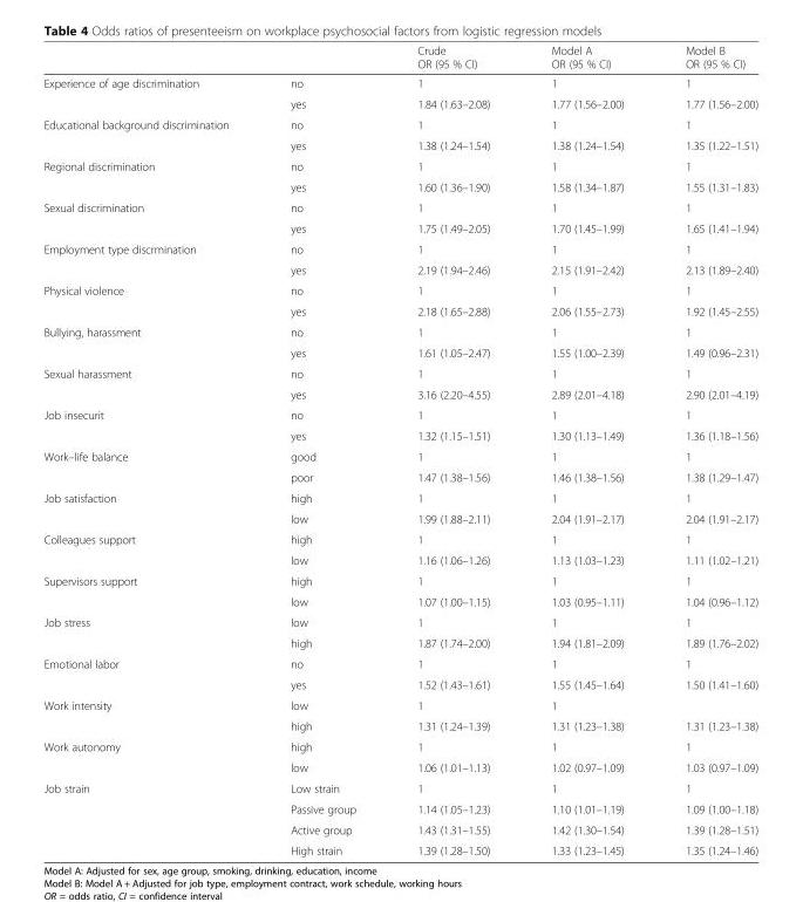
<table><thead><tr><td></td><td></td><td>Crude OR (95 % CI)</td><td>Model A OR (95 % CI)</td><td>Model B OR (95 % CI)</td></tr></thead><tbody><tr><td rowspan="2">Experience of age discrimination</td><td>no</td><td>1</td><td>1</td><td>1</td></tr><tr><td>yes</td><td>1.84 (1.63–2.08)</td><td>1.77 (1.56–2.00)</td><td>1.77 (1.56–2.00)</td></tr><tr><td rowspan="2">Educational background discrimination</td><td>no</td><td>1</td><td>1</td><td>1</td></tr><tr><td>yes</td><td>1.38 (1.24–1.54)</td><td>1.38 (1.24–1.54)</td><td>1.35 (1.22–1.51)</td></tr><tr><td rowspan="2">Regional discrimination</td><td>no</td><td>1</td><td>1</td><td>1</td></tr><tr><td>yes</td><td>1.60 (1.36–1.90)</td><td>1.58 (1.34–1.87)</td><td>1.55 (1.31–1.83)</td></tr><tr><td rowspan="2">Sexual discrimination</td><td>no</td><td>1</td><td>1</td><td>1</td></tr><tr><td>yes</td><td>1.75 (1.49–2.05)</td><td>1.70 (1.45–1.99)</td><td>1.65 (1.41–1.94)</td></tr><tr><td rowspan="2">Employment type discrmination</td><td>no</td><td>1</td><td>1</td><td>1</td></tr><tr><td>yes</td><td>2.19 (1.94–2.46)</td><td>2.15 (1.91–2.42)</td><td>2.13 (1.89–2.40)</td></tr><tr><td rowspan="2">Physical violence</td><td>no</td><td>1</td><td>1</td><td>1</td></tr><tr><td>yes</td><td>2.18 (1.65–2.88)</td><td>2.06 (1.55–2.73)</td><td>1.92 (1.45–2.55)</td></tr><tr><td rowspan="2">Bullying, harassment</td><td>no</td><td>1</td><td>1</td><td>1</td></tr><tr><td>yes</td><td>1.61 (1.05–2.47)</td><td>1.55 (1.00–2.39)</td><td>1.49 (0.96–2.31)</td></tr><tr><td rowspan="2">Sexual harassment</td><td>no</td><td>1</td><td>1</td><td>1</td></tr><tr><td>yes</td><td>3.16 (2.20–4.55)</td><td>2.89 (2.01–4.18)</td><td>2.90 (2.01–4.19)</td></tr><tr><td rowspan="2">Job insecurit</td><td>no</td><td>1</td><td>1</td><td>1</td></tr><tr><td>yes</td><td>1.32 (1.15–1.51)</td><td>1.30 (1.13–1.49)</td><td>1.36 (1.18–1.56)</td></tr><tr><td rowspan="2">Work–life balance</td><td>good</td><td>1</td><td>1</td><td>1</td></tr><tr><td>poor</td><td>1.47 (1.38–1.56)</td><td>1.46 (1.38–1.56)</td><td>1.38 (1.29–1.47)</td></tr><tr><td rowspan="2">Job satisfaction</td><td>high</td><td>1</td><td>1</td><td>1</td></tr><tr><td>low</td><td>1.99 (1.88–2.11)</td><td>2.04 (1.91–2.17)</td><td>2.04 (1.91–2.17)</td></tr><tr><td rowspan="2">Colleagues support</td><td>high</td><td>1</td><td>1</td><td>1</td></tr><tr><td>low</td><td>1.16 (1.06–1.26)</td><td>1.13 (1.03–1.23)</td><td>1.11 (1.02–1.21)</td></tr><tr><td rowspan="2">Supervisors support</td><td>high</td><td>1</td><td>1</td><td>1</td></tr><tr><td>low</td><td>1.07 (1.00–1.15)</td><td>1.03 (0.95–1.11)</td><td>1.04 (0.96–1.12)</td></tr><tr><td rowspan="2">Job stress</td><td>low</td><td>1</td><td>1</td><td>1</td></tr><tr><td>high</td><td>1.87 (1.74–2.00)</td><td>1.94 (1.81–2.09)</td><td>1.89 (1.76–2.02)</td></tr><tr><td rowspan="2">Emotional labor</td><td>no</td><td>1</td><td>1</td><td>1</td></tr><tr><td>yes</td><td>1.52 (1.43–1.61)</td><td>1.55 (1.45–1.64)</td><td>1.50 (1.41–1.60)</td></tr><tr><td rowspan="2">Work intensity</td><td>low</td><td>1</td><td>1</td><td></td></tr><tr><td>high</td><td>1.31 (1.24–1.39)</td><td>1.31 (1.23–1.38)</td><td>1.31 (1.23–1.38)</td></tr><tr><td rowspan="2">Work autonomy</td><td>high</td><td>1</td><td>1</td><td>1</td></tr><tr><td>low</td><td>1.06 (1.01–1.13)</td><td>1.02 (0.97–1.09)</td><td>1.03 (0.97–1.09)</td></tr><tr><td rowspan="4">Job strain</td><td>Low strain</td><td>1</td><td>1</td><td>1</td></tr><tr><td>Passive group</td><td>1.14 (1.05–1.23)</td><td>1.10 (1.01–1.19)</td><td>1.09 (1.00–1.18)</td></tr><tr><td>Active group</td><td>1.43 (1.31–1.55)</td><td>1.42 (1.30–1.54)</td><td>1.39 (1.28–1.51)</td></tr><tr><td>High strain</td><td>1.39 (1.28–1.50)</td><td>1.33 (1.23–1.45)</td><td>1.35 (1.24–1.46)</td></tr></tbody></table>